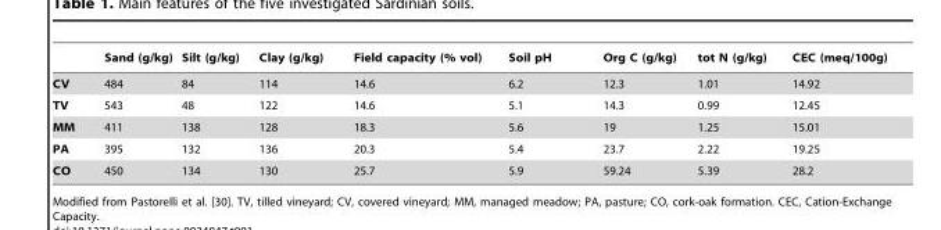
<table><thead><tr><td></td><td>Sand (g/kg)</td><td>Silt (g/kg)</td><td>Clay (g/kg)</td><td>Field capacity (% vol)</td><td>Soil pH</td><td>Org C (g/kg)</td><td>tot N (g/kg)</td><td>CEC (meq/100g)</td></tr></thead><tbody><tr><td>CV</td><td>484</td><td>84</td><td>114</td><td>14.6</td><td>6.2</td><td>12.3</td><td>1.01</td><td>14.92</td></tr><tr><td>TV</td><td>543</td><td>48</td><td>122</td><td>14.6</td><td>5.1</td><td>14.3</td><td>0.99</td><td>12.45</td></tr><tr><td>MM</td><td>411</td><td>138</td><td>128</td><td>18.3</td><td>5.6</td><td>19</td><td>1.25</td><td>15.01</td></tr><tr><td>PA</td><td>395</td><td>132</td><td>136</td><td>20.3</td><td>5.4</td><td>23.7</td><td>2.22</td><td>19.25</td></tr><tr><td>CO</td><td>450</td><td>134</td><td>130</td><td>25.7</td><td>5.9</td><td>59.24</td><td>5.39</td><td>28.2</td></tr></tbody></table>